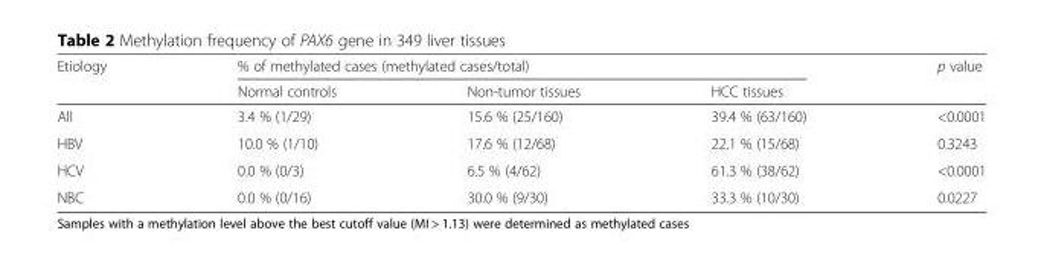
<table><thead><tr><td rowspan="2">Etiology</td><td colspan="3">% of methylated cases (methylated cases/total)</td><td rowspan="2">p value</td></tr><tr><td>Normal controls</td><td>Non-tumor tissues</td><td>HCC tissues</td></tr></thead><tbody><tr><td>All</td><td>3.4 % (1/29)</td><td>15.6 % (25/160)</td><td>39.4 % (63/160)</td><td>&lt;0.0001</td></tr><tr><td>HBV</td><td>10.0 % (1/10)</td><td>17.6 % (12/68)</td><td>22.1 % (15/68)</td><td>0.3243</td></tr><tr><td>HCV</td><td>0.0 % (0/3)</td><td>6.5 % (4/62)</td><td>61.3 % (38/62)</td><td>&lt;0.0001</td></tr><tr><td>NBC</td><td>0.0 % (0/16)</td><td>30.0 % (9/30)</td><td>33.3 % (10/30)</td><td>0.0227</td></tr></tbody></table>